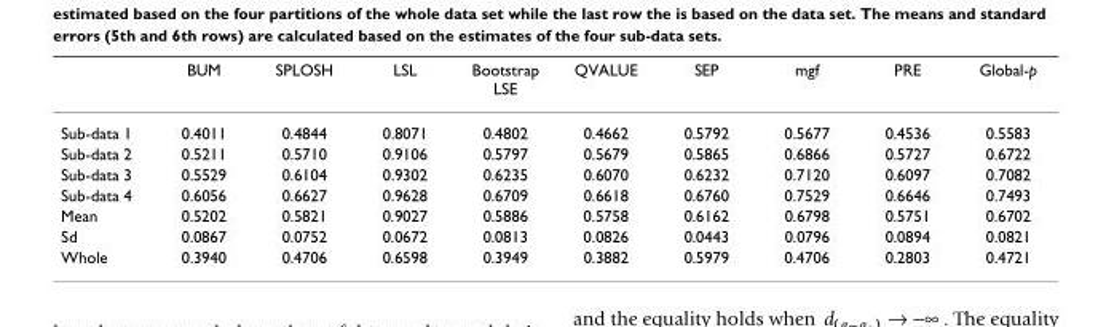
<table><thead><tr><td></td><td>BUM</td><td>SPLOSH</td><td>LSL</td><td>Bootstrap LSE</td><td>QVALUE</td><td>SEP</td><td>mgf</td><td>PRE</td><td>Global-p</td></tr></thead><tbody><tr><td>Sub-data 1</td><td>0.4011</td><td>0.4844</td><td>0.8071</td><td>0.4802</td><td>0.4662</td><td>0.5792</td><td>0.5677</td><td>0.4536</td><td>0.5583</td></tr><tr><td>Sub-data 2</td><td>0.5211</td><td>0.5710</td><td>0.9106</td><td>0.5797</td><td>0.5679</td><td>0.5865</td><td>0.6866</td><td>0.5727</td><td>0.6722</td></tr><tr><td>Sub-data 3</td><td>0.5529</td><td>0.6104</td><td>0.9302</td><td>0.6235</td><td>0.6070</td><td>0.6232</td><td>0.7120</td><td>0.6097</td><td>0.7082</td></tr><tr><td>Sub-data 4</td><td>0.6056</td><td>0.6627</td><td>0.9628</td><td>0.6709</td><td>0.6618</td><td>0.6760</td><td>0.7529</td><td>0.6646</td><td>0.7493</td></tr><tr><td>Mean</td><td>0.5202</td><td>0.5821</td><td>0.9027</td><td>0.5886</td><td>0.5758</td><td>0.6162</td><td>0.6798</td><td>0.5751</td><td>0.6702</td></tr><tr><td>Sd</td><td>0.0867</td><td>0.0752</td><td>0.0672</td><td>0.0813</td><td>0.0826</td><td>0.0443</td><td>0.0796</td><td>0.0894</td><td>0.0821</td></tr><tr><td>Whole</td><td>0.3940</td><td>0.4706</td><td>0.6598</td><td>0.3949</td><td>0.3882</td><td>0.5979</td><td>0.4706</td><td>0.2803</td><td>0.4721</td></tr></tbody></table>